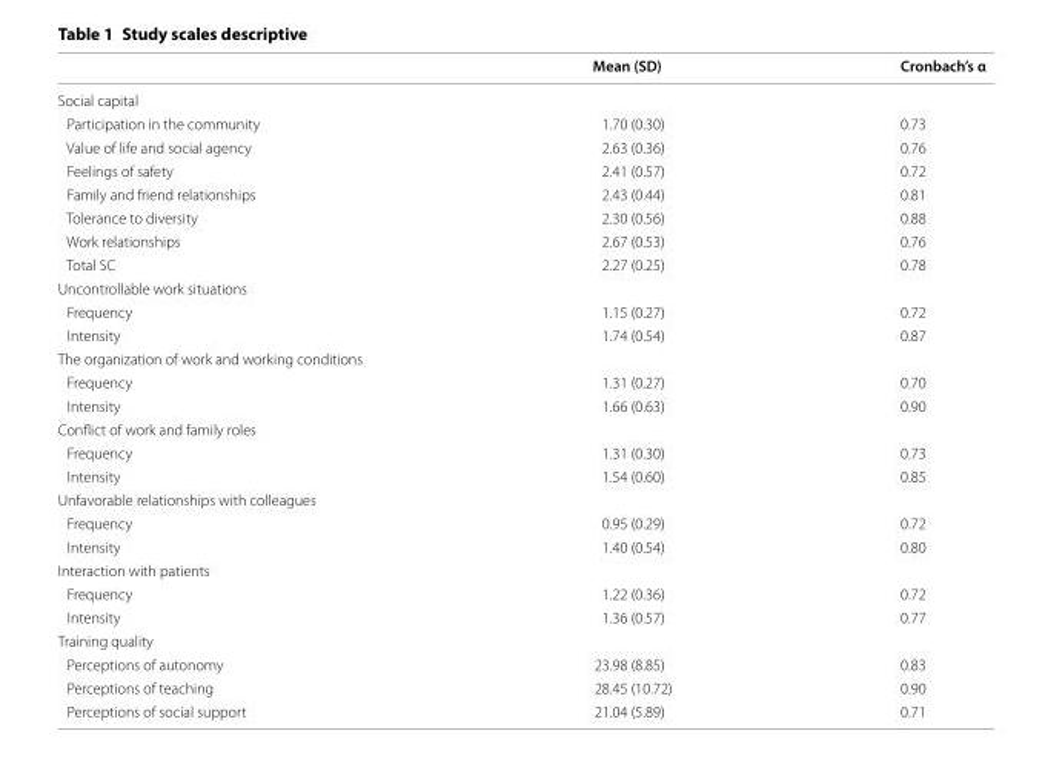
<table><thead><tr><td></td><td>Mean (SD)</td><td>Cronbach’s α</td></tr></thead><tbody><tr><td colspan="3">Social capital</td></tr><tr><td>Participation in the community</td><td>1.70 (0.30)</td><td>0.73</td></tr><tr><td>Value of life and social agency</td><td>2.63 (0.36)</td><td>0.76</td></tr><tr><td>Feelings of safety</td><td>2.41 (0.57)</td><td>0.72</td></tr><tr><td>Family and friend relationships</td><td>2.43 (0.44)</td><td>0.81</td></tr><tr><td>Tolerance to diversity</td><td>2.30 (0.56)</td><td>0.88</td></tr><tr><td>Work relationships</td><td>2.67 (0.53)</td><td>0.76</td></tr><tr><td>Total SC</td><td>2.27 (0.25)</td><td>0.78</td></tr><tr><td colspan="3">Uncontrollable work situations</td></tr><tr><td>Frequency</td><td>1.15 (0.27)</td><td>0.72</td></tr><tr><td>Intensity</td><td>1.74 (0.54)</td><td>0.87</td></tr><tr><td colspan="3">The organization of work and working conditions</td></tr><tr><td>Frequency</td><td>1.31 (0.27)</td><td>0.70</td></tr><tr><td>Intensity</td><td>1.66 (0.63)</td><td>0.90</td></tr><tr><td colspan="3">Conflict of work and family roles</td></tr><tr><td>Frequency</td><td>1.31 (0.30)</td><td>0.73</td></tr><tr><td>Intensity</td><td>1.54 (0.60)</td><td>0.85</td></tr><tr><td colspan="3">Unfavorable relationships with colleagues</td></tr><tr><td>Frequency</td><td>0.95 (0.29)</td><td>0.72</td></tr><tr><td>Intensity</td><td>1.40 (0.54)</td><td>0.80</td></tr><tr><td colspan="3">Interaction with patients</td></tr><tr><td>Frequency</td><td>1.22 (0.36)</td><td>0.72</td></tr><tr><td>Intensity</td><td>1.36 (0.57)</td><td>0.77</td></tr><tr><td colspan="3">Training quality</td></tr><tr><td>Perceptions of autonomy</td><td>23.98 (8.85)</td><td>0.83</td></tr><tr><td>Perceptions of teaching</td><td>28.45 (10.72)</td><td>0.90</td></tr><tr><td>Perceptions of social support</td><td>21.04 (5.89)</td><td>0.71</td></tr></tbody></table>